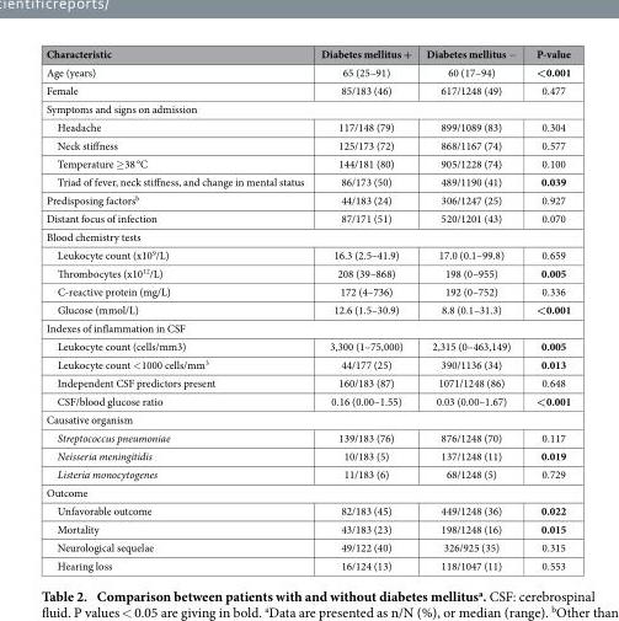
<table><thead><tr><td>Characteristic</td><td>Diabetes mellitus +</td><td>Diabetes mellitus −</td><td>P-value</td></tr></thead><tbody><tr><td>Age (years)</td><td>65 (25–91)</td><td>60 (17–94)</td><td>&lt;0.001</td></tr><tr><td>Female</td><td>85/183 (46)</td><td>617/1248 (49)</td><td>0.477</td></tr><tr><td colspan="4">Symptoms and signs on admission</td></tr><tr><td>Headache</td><td>117/148 (79)</td><td>899/1089 (83)</td><td>0.304</td></tr><tr><td>Neck stiffness</td><td>125/173 (72)</td><td>868/1167 (74)</td><td>0.577</td></tr><tr><td>Temperature ≥ 38 °C</td><td>144/181 (80)</td><td>905/1228 (74)</td><td>0.100</td></tr><tr><td>Triad of fever, neck stiffness, and change in mental status</td><td>86/173 (50)</td><td>489/1190 (41)</td><td>0.039</td></tr><tr><td>Predisposing factors<sup>b</sup></td><td>44/183 (24)</td><td>306/1247 (25)</td><td>0.927</td></tr><tr><td>Distant focus of infection</td><td>87/171 (51)</td><td>520/1201 (43)</td><td>0.070</td></tr><tr><td colspan="4">Blood chemistry tests</td></tr><tr><td>Leukocyte count (x10<sup>9</sup>/L)</td><td>16.3 (2.5–41.9)</td><td>17.0 (0.1–99.8)</td><td>0.659</td></tr><tr><td>Thrombocytes (x10<sup>12</sup>/L)</td><td>208 (39–868)</td><td>198 (0–955)</td><td>0.005</td></tr><tr><td>C-reactive protein (mg/L)</td><td>172 (4–736)</td><td>192 (0–752)</td><td>0.336</td></tr><tr><td>Glucose (mmol/L)</td><td>12.6 (1.5–30.9)</td><td>8.8 (0.1–31.3)</td><td>&lt;0.001</td></tr><tr><td colspan="4">Indexes of inflammation in CSF</td></tr><tr><td>Leukocyte count (cells/mm3)</td><td>3,300 (1–75,000)</td><td>2,315 (0–463,149)</td><td>0.005</td></tr><tr><td>Leukocyte count &lt; 1000 cells/mm<sup>3</sup></td><td>44/177 (25)</td><td>390/1136 (34)</td><td>0.013</td></tr><tr><td>Independent CSF predictors present</td><td>160/183 (87)</td><td>1071/1248 (86)</td><td>0.648</td></tr><tr><td>CSF/blood glucose ratio</td><td>0.16 (0.00–1.55)</td><td>0.03 (0.00–1.67)</td><td>&lt; 0.001</td></tr><tr><td colspan="4">Causative organism</td></tr><tr><td>Streptococcus pneumoniae</td><td>139/183 (76)</td><td>876/1248 (70)</td><td>0.117</td></tr><tr><td>Neisseria meningitidis</td><td>10/183 (5)</td><td>137/1248 (11)</td><td>0.019</td></tr><tr><td>Listeria monocytogenes</td><td>11/183 (6)</td><td>68/1248 (5)</td><td>0.729</td></tr><tr><td colspan="4">Outcome</td></tr><tr><td>Unfavorable outcome</td><td>82/183 (45)</td><td>449/1248 (36)</td><td>0.022</td></tr><tr><td>Mortality</td><td>43/183 (23)</td><td>198/1248 (16)</td><td>0.015</td></tr><tr><td>Neurological sequelae</td><td>49/122 (40)</td><td>326/925 (35)</td><td>0.315</td></tr><tr><td>Hearing loss</td><td>16/124 (13)</td><td>118/1047 (11)</td><td>0.553</td></tr></tbody></table>